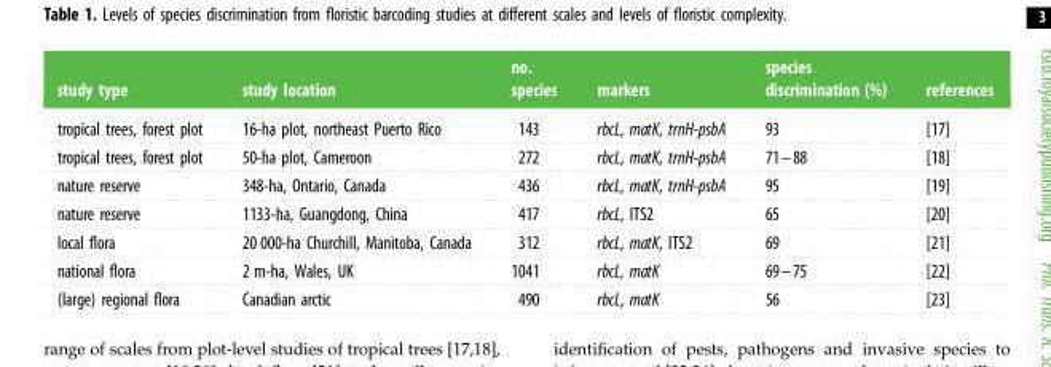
<table><thead><tr><td>study type</td><td>study location</td><td>no. species</td><td>markers</td><td>species discrimination (%)</td><td>references</td></tr></thead><tbody><tr><td>tropical trees, forest plot</td><td>16-ha plot, northeast Puerto Rico</td><td>143</td><td>rbcL, matK, trnH-psbA</td><td>93</td><td>[17]</td></tr><tr><td>tropical trees, forest plot</td><td>50-ha plot, Cameroon</td><td>272</td><td>rbcL, matK, trnH-psbA</td><td>71–88</td><td>[18]</td></tr><tr><td>nature reserve</td><td>348-ha, Ontario, Canada</td><td>436</td><td>rbcL, matK, trnH-psbA</td><td>95</td><td>[19]</td></tr><tr><td>nature reserve</td><td>1133-ha, Guangdong, China</td><td>417</td><td>rbcL, ITS2</td><td>65</td><td>[20]</td></tr><tr><td>local flora</td><td>20 000-ha Churchill, Manitoba, Canada</td><td>312</td><td>rbcL, matK, ITS2</td><td>69</td><td>[21]</td></tr><tr><td>national flora</td><td>2 m-ha, Wales, UK</td><td>1041</td><td>rbcL, matK</td><td>69–75</td><td>[22]</td></tr><tr><td>(large) regional flora</td><td>Canadian arctic</td><td>490</td><td>rbcL, matK</td><td>56</td><td>[23]</td></tr></tbody></table>